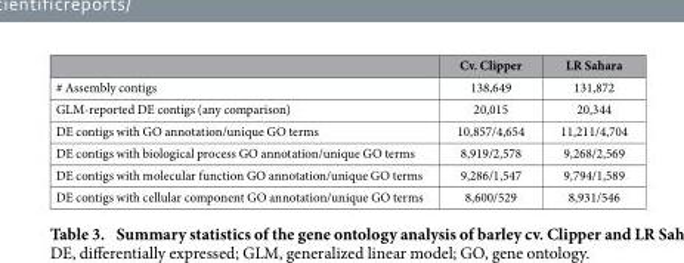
<table><thead><tr><td></td><td>Cv. Clipper</td><td>LR Sahara</td></tr></thead><tbody><tr><td># Assembly contigs</td><td>138,649</td><td>131,872</td></tr><tr><td>GLM-reported DE contigs (any comparison)</td><td>20,015</td><td>20,344</td></tr><tr><td>DE contigs with GO annotation/unique GO terms</td><td>10,857/4,654</td><td>11,211/4,704</td></tr><tr><td>DE contigs with biological process GO annotation/unique GO terms</td><td>8,919/2,578</td><td>9,268/2,569</td></tr><tr><td>DE contigs with molecular function GO annotation/unique GO terms</td><td>9,286/1,547</td><td>9,794/1,589</td></tr><tr><td>DE contigs with cellular component GO annotation/unique GO terms</td><td>8,600/529</td><td>8,931/546</td></tr></tbody></table>